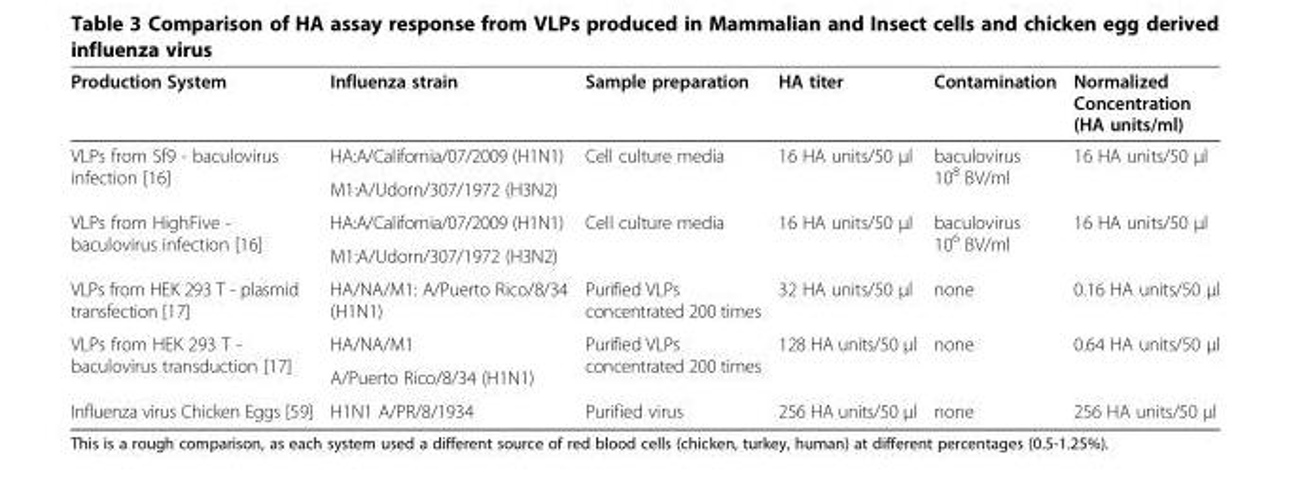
<table><thead><tr><td>Production System</td><td>Influenza strain</td><td>Sample preparation</td><td>HA titer</td><td>Contamination</td><td>Normalized Concentration (HA units/ml)</td></tr></thead><tbody><tr><td rowspan="2">VLPs from Sf9 - baculovirus infection [16]</td><td>HA:A/California/07/2009 (H1N1)</td><td rowspan="2">Cell culture media</td><td rowspan="2">16 HA units/50 μl</td><td rowspan="2">baculovirus 10<sup>8</sup> BV/ml</td><td rowspan="2">16 HA units/50 μl</td></tr><tr><td>M1:A/Udorn/307/1972 (H3N2)</td></tr><tr><td rowspan="2">VLPs from HighFive - baculovirus infection [16]</td><td>HA:A/California/07/2009 (H1N1)</td><td rowspan="2">Cell culture media</td><td rowspan="2">16 HA units/50 μl</td><td rowspan="2">baculovirus 10<sup>6</sup> BV/ml</td><td rowspan="2">16 HA units/50 μl</td></tr><tr><td>M1:A/Udorn/307/1972 (H3N2)</td></tr><tr><td>VLPs from HEK 293 T - plasmid transfection [17]</td><td>HA/NA/M1: A/Puerto Rico/8/34 (H1N1)</td><td>Purified VLPs concentrated 200 times</td><td>32 HA units/50 μl</td><td>none</td><td>0.16 HA units/50 μl</td></tr><tr><td rowspan="2">VLPs from HEK 293 T - baculovirus transduction [17]</td><td>HA/NA/M1</td><td rowspan="2">Purified VLPs concentrated 200 times</td><td rowspan="2">128 HA units/50 μl</td><td rowspan="2">none</td><td rowspan="2">0.64 HA units/50 μl</td></tr><tr><td>A/Puerto Rico/8/34 (H1N1)</td></tr><tr><td>Influenza virus Chicken Eggs [59]</td><td>H1N1 A/PR/8/1934</td><td>Purified virus</td><td>256 HA units/50 μl</td><td>none</td><td>256 HA units/50 μl</td></tr></tbody></table>